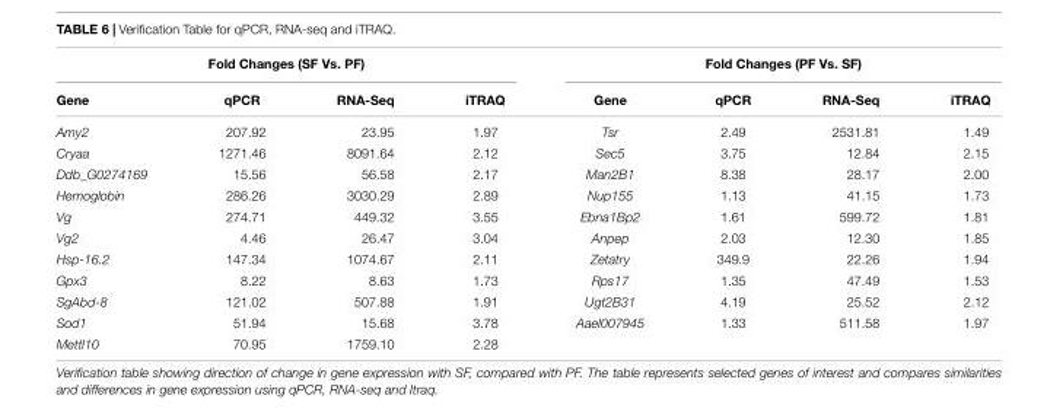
<table><thead><tr><td colspan="4">Fold Changes (SF Vs. PF)</td><td colspan="4">Fold Changes (PF Vs. SF)</td></tr><tr><td>Gene</td><td>qPCR</td><td>RNA-Seq</td><td>iTRAQ</td><td>Gene</td><td>qPCR</td><td>RNA-Seq</td><td>iTRAQ</td></tr></thead><tbody><tr><td>Amy2</td><td>207.92</td><td>23.95</td><td>1.97</td><td>Tsr</td><td>2.49</td><td>2531.81</td><td>1.49</td></tr><tr><td>Cryaa</td><td>1271.46</td><td>8091.64</td><td>2.12</td><td>Sec5</td><td>3.75</td><td>12.84</td><td>2.15</td></tr><tr><td>Ddb_G0274169</td><td>15.56</td><td>56.58</td><td>2.17</td><td>Man2B1</td><td>8.38</td><td>28.17</td><td>2.00</td></tr><tr><td>Hemoglobin</td><td>286.26</td><td>3030.29</td><td>2.89</td><td>Nup155</td><td>1.13</td><td>41.15</td><td>1.73</td></tr><tr><td>Vg</td><td>274.71</td><td>449.32</td><td>3.55</td><td>Ebna1Bp2</td><td>1.61</td><td>599.72</td><td>1.81</td></tr><tr><td>Vg2</td><td>4.46</td><td>26.47</td><td>3.04</td><td>Anpep</td><td>2.03</td><td>12.30</td><td>1.85</td></tr><tr><td>Hsp-16.2</td><td>147.34</td><td>1074.67</td><td>2.11</td><td>Zetatry</td><td>349.9</td><td>22.26</td><td>1.94</td></tr><tr><td>Gpx3</td><td>8.22</td><td>8.63</td><td>1.73</td><td>Rps17</td><td>1.35</td><td>47.49</td><td>1.53</td></tr><tr><td>SgAbd-8</td><td>121.02</td><td>507.88</td><td>1.91</td><td>Ugt2B31</td><td>4.19</td><td>25.52</td><td>2.12</td></tr><tr><td>Sod1</td><td>51.94</td><td>15.68</td><td>3.78</td><td>Aael007945</td><td>1.33</td><td>511.58</td><td>1.97</td></tr><tr><td>Mettl10</td><td>70.95</td><td>1759.10</td><td>2.28</td><td></td><td></td><td></td><td></td></tr></tbody></table>